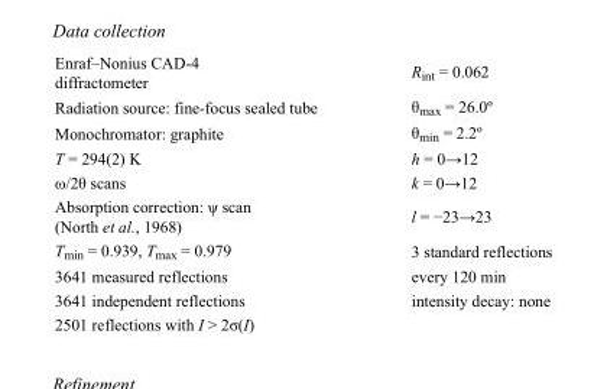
<table><tbody><tr><td>Enraf–Nonius CAD-4 diffractometer</td><td>R<sub>int</sub> = 0.062</td></tr><tr><td>Radiation source: fine-focus sealed tube</td><td>θ<sub>max</sub> = 26.0º</td></tr><tr><td>Monochromator: graphite</td><td>θ<sub>min</sub> = 2.2º</td></tr><tr><td>T = 294(2) K</td><td>h = 0→12</td></tr><tr><td>ω/2θ scans</td><td>k = 0→12</td></tr><tr><td>Absorption correction: ψ scan (North et al., 1968)</td><td>l = −23→23</td></tr><tr><td>T<sub>min</sub> = 0.939, T<sub>max</sub> = 0.979</td><td>3 standard reflections</td></tr><tr><td>3641 measured reflections</td><td>every 120 min</td></tr><tr><td>3641 independent reflections</td><td>intensity decay: none</td></tr><tr><td>2501 reflections with I &gt; 2σ(I)</td><td></td></tr></tbody></table>